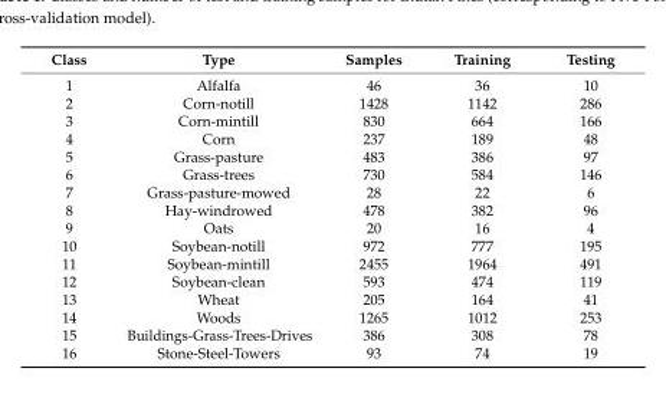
<table><thead><tr><td>Class</td><td>Type</td><td>Samples</td><td>Training</td><td>Testing</td></tr></thead><tbody><tr><td>1</td><td>Alfalfa</td><td>46</td><td>36</td><td>10</td></tr><tr><td>2</td><td>Corn-notill</td><td>1428</td><td>1142</td><td>286</td></tr><tr><td>3</td><td>Corn-mintill</td><td>830</td><td>664</td><td>166</td></tr><tr><td>4</td><td>Corn</td><td>237</td><td>189</td><td>48</td></tr><tr><td>5</td><td>Grass-pasture</td><td>483</td><td>386</td><td>97</td></tr><tr><td>6</td><td>Grass-trees</td><td>730</td><td>584</td><td>146</td></tr><tr><td>7</td><td>Grass-pasture-mowed</td><td>28</td><td>22</td><td>6</td></tr><tr><td>8</td><td>Hay-windrowed</td><td>478</td><td>382</td><td>96</td></tr><tr><td>9</td><td>Oats</td><td>20</td><td>16</td><td>4</td></tr><tr><td>10</td><td>Soybean-notill</td><td>972</td><td>777</td><td>195</td></tr><tr><td>11</td><td>Soybean-mintill</td><td>2455</td><td>1964</td><td>491</td></tr><tr><td>12</td><td>Soybean-clean</td><td>593</td><td>474</td><td>119</td></tr><tr><td>13</td><td>Wheat</td><td>205</td><td>164</td><td>41</td></tr><tr><td>14</td><td>Woods</td><td>1265</td><td>1012</td><td>253</td></tr><tr><td>15</td><td>Buildings-Grass-Trees-Drives</td><td>386</td><td>308</td><td>78</td></tr><tr><td>16</td><td>Stone-Steel-Towers</td><td>93</td><td>74</td><td>19</td></tr></tbody></table>